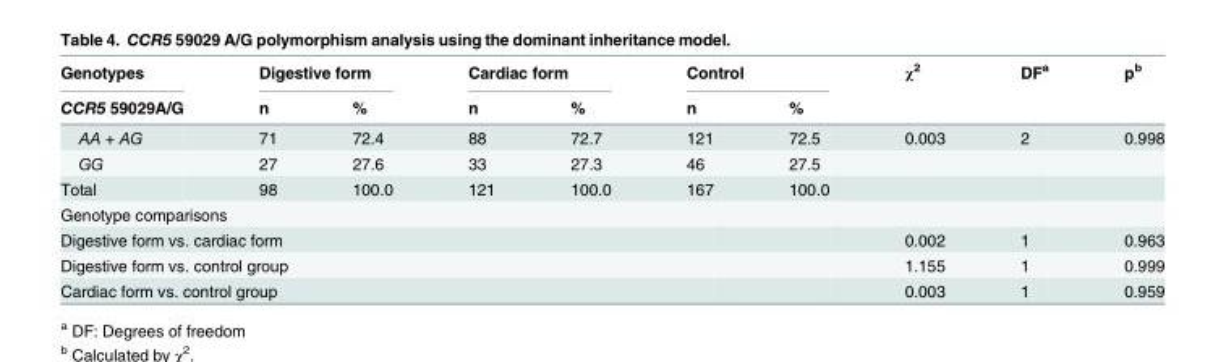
<table><thead><tr><td rowspan="2">Genotypes CCR5 59029A/G</td><td colspan="2">Digestive form</td><td colspan="2">Cardiac form</td><td colspan="2">Control</td><td rowspan="2">χ<sup>2</sup></td><td rowspan="2">DF<sup>a</sup></td><td rowspan="2">p<sup>b</sup></td></tr><tr><td>n</td><td>%</td><td>n</td><td>%</td><td>n</td><td>%</td></tr></thead><tbody><tr><td>AA + AG</td><td>71</td><td>72.4</td><td>88</td><td>72.7</td><td>121</td><td>72.5</td><td>0.003</td><td>2</td><td>0.998</td></tr><tr><td>GG</td><td>27</td><td>27.6</td><td>33</td><td>27.3</td><td>46</td><td>27.5</td><td></td><td></td><td></td></tr><tr><td>Total</td><td>98</td><td>100.0</td><td>121</td><td>100.0</td><td>167</td><td>100.0</td><td></td><td></td><td></td></tr><tr><td colspan="10">Genotype comparisons</td></tr><tr><td colspan="5">Digestive form vs. cardiac form</td><td></td><td></td><td>0.002</td><td>1</td><td>0.963</td></tr><tr><td colspan="5">Digestive form vs. control group</td><td></td><td></td><td>1.155</td><td>1</td><td>0.999</td></tr><tr><td colspan="5">Cardiac form vs. control group</td><td></td><td></td><td>0.003</td><td>1</td><td>0.959</td></tr></tbody></table>